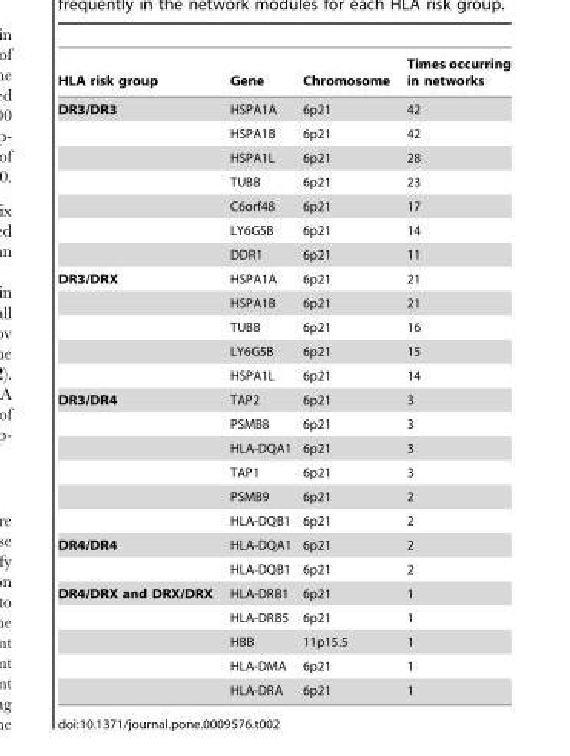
<table><thead><tr><td>HLA risk group</td><td>Gene</td><td>Chromosome</td><td>Times occurring in networks</td></tr></thead><tbody><tr><td rowspan="7">DR3/DR3</td><td>HSPA1A</td><td>6p21</td><td>42</td></tr><tr><td>HSPA1B</td><td>6p21</td><td>42</td></tr><tr><td>HSPA1L</td><td>6p21</td><td>28</td></tr><tr><td>TUBB</td><td>6p21</td><td>23</td></tr><tr><td>C6orf48</td><td>6p21</td><td>17</td></tr><tr><td>LY6G5B</td><td>6p21</td><td>14</td></tr><tr><td>DDR1</td><td>6p21</td><td>11</td></tr><tr><td rowspan="5">DR3/DRX</td><td>HSPA1A</td><td>6p21</td><td>21</td></tr><tr><td>HSPA1B</td><td>6p21</td><td>21</td></tr><tr><td>TUBB</td><td>6p21</td><td>16</td></tr><tr><td>LY6G5B</td><td>6p21</td><td>15</td></tr><tr><td>HSPA1L</td><td>6p21</td><td>14</td></tr><tr><td rowspan="6">DR3/DR4</td><td>TAP2</td><td>6p21</td><td>3</td></tr><tr><td>PSMB8</td><td>6p21</td><td>3</td></tr><tr><td>HLA-DQA1</td><td>6p21</td><td>3</td></tr><tr><td>TAP1</td><td>6p21</td><td>3</td></tr><tr><td>PSMB9</td><td>6p21</td><td>2</td></tr><tr><td>HLA-DQB1</td><td>6p21</td><td>2</td></tr><tr><td rowspan="2">DR4/DR4</td><td>HLA-DQA1</td><td>6p21</td><td>2</td></tr><tr><td>HLA-DQB1</td><td>6p21</td><td>2</td></tr><tr><td rowspan="5">DR4/DRX and DRX/DRX</td><td>HLA-DRB1</td><td>6p21</td><td>1</td></tr><tr><td>HLA-DRB5</td><td>6p21</td><td>1</td></tr><tr><td>HBB</td><td>11p15.5</td><td>1</td></tr><tr><td>HLA-DMA</td><td>6p21</td><td>1</td></tr><tr><td>HLA-DRA</td><td>6p21</td><td>1</td></tr></tbody></table>